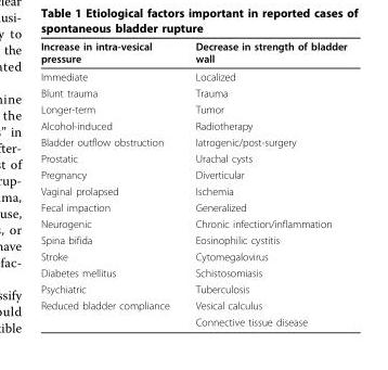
<table><thead><tr><td>Increase in intra-vesical pressure</td><td>Decrease in strength of bladder wall</td></tr></thead><tbody><tr><td>Immediate</td><td>Localized</td></tr><tr><td>Blunt trauma</td><td>Trauma</td></tr><tr><td>Longer-term</td><td>Tumor</td></tr><tr><td>Alcohol-induced</td><td>Radiotherapy</td></tr><tr><td>Bladder outflow obstruction</td><td>Iatrogenic/post-surgery</td></tr><tr><td>Prostatic</td><td>Urachal cysts</td></tr><tr><td>Pregnancy</td><td>Diverticular</td></tr><tr><td>Vaginal prolapsed</td><td>Ischemia</td></tr><tr><td>Fecal impaction</td><td>Generalized</td></tr><tr><td>Neurogenic</td><td>Chronic infection/inflammation</td></tr><tr><td>Spina bifida</td><td>Eosinophilic cystitis</td></tr><tr><td>Stroke</td><td>Cytomegalovirus</td></tr><tr><td>Diabetes mellitus</td><td>Schistosomiasis</td></tr><tr><td>Psychiatric</td><td>Tuberculosis</td></tr><tr><td rowspan="2">Reduced bladder compliance</td><td>Vesical calculus</td></tr><tr><td>Connective tissue disease</td></tr></tbody></table>